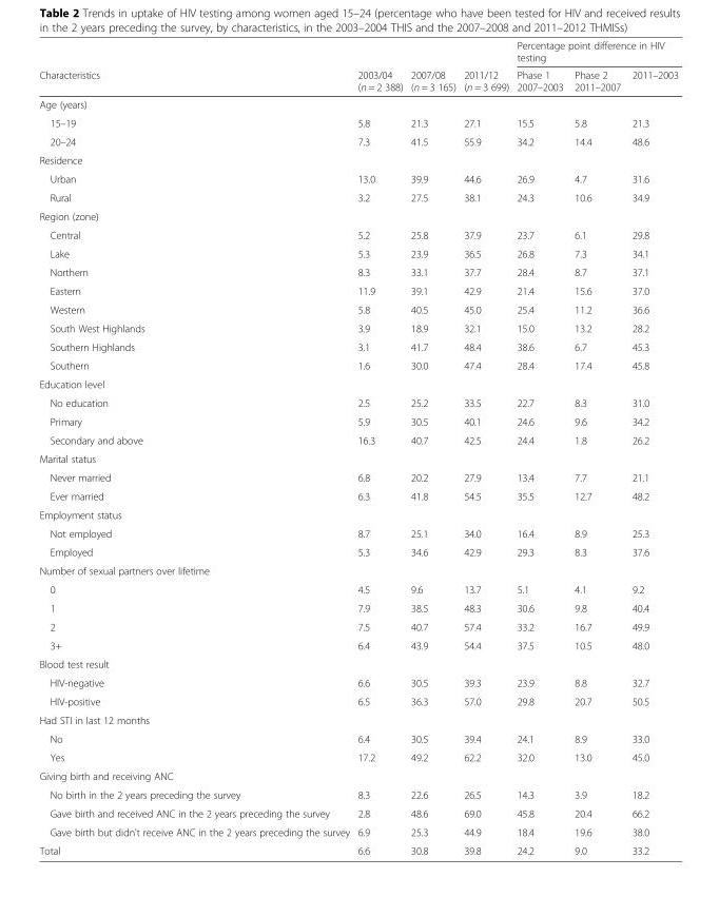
<table><thead><tr><td rowspan="2">Characteristics</td><td rowspan="2">2003/04 (n = 2 388)</td><td rowspan="2">2007/08 (n = 3 165)</td><td rowspan="2">2011/12 (n = 3 699)</td><td colspan="3">Percentage point difference in HIV testing</td></tr><tr><td>Phase 1 2007–2003</td><td>Phase 2 2011–2007</td><td>2011–2003</td></tr></thead><tbody><tr><td colspan="7">Age (years)</td></tr><tr><td>15–19</td><td>5.8</td><td>21.3</td><td>27.1</td><td>15.5</td><td>5.8</td><td>21.3</td></tr><tr><td>20–24</td><td>7.3</td><td>41.5</td><td>55.9</td><td>34.2</td><td>14.4</td><td>48.6</td></tr><tr><td colspan="7">Residence</td></tr><tr><td>Urban</td><td>13.0</td><td>39.9</td><td>44.6</td><td>26.9</td><td>4.7</td><td>31.6</td></tr><tr><td>Rural</td><td>3.2</td><td>27.5</td><td>38.1</td><td>24.3</td><td>10.6</td><td>34.9</td></tr><tr><td colspan="7">Region (zone)</td></tr><tr><td>Central</td><td>5.2</td><td>25.8</td><td>37.9</td><td>23.7</td><td>6.1</td><td>29.8</td></tr><tr><td>Lake</td><td>5.3</td><td>23.9</td><td>36.5</td><td>26.8</td><td>7.3</td><td>34.1</td></tr><tr><td>Northern</td><td>8.3</td><td>33.1</td><td>37.7</td><td>28.4</td><td>8.7</td><td>37.1</td></tr><tr><td>Eastern</td><td>11.9</td><td>39.1</td><td>42.9</td><td>21.4</td><td>15.6</td><td>37.0</td></tr><tr><td>Western</td><td>5.8</td><td>40.5</td><td>45.0</td><td>25.4</td><td>11.2</td><td>36.6</td></tr><tr><td>South West Highlands</td><td>3.9</td><td>18.9</td><td>32.1</td><td>15.0</td><td>13.2</td><td>28.2</td></tr><tr><td>Southern Highlands</td><td>3.1</td><td>41.7</td><td>48.4</td><td>38.6</td><td>6.7</td><td>45.3</td></tr><tr><td>Southern</td><td>1.6</td><td>30.0</td><td>47.4</td><td>28.4</td><td>17.4</td><td>45.8</td></tr><tr><td colspan="7">Education level</td></tr><tr><td>No education</td><td>2.5</td><td>25.2</td><td>33.5</td><td>22.7</td><td>8.3</td><td>31.0</td></tr><tr><td>Primary</td><td>5.9</td><td>30.5</td><td>40.1</td><td>24.6</td><td>9.6</td><td>34.2</td></tr><tr><td>Secondary and above</td><td>16.3</td><td>40.7</td><td>42.5</td><td>24.4</td><td>1.8</td><td>26.2</td></tr><tr><td colspan="7">Marital status</td></tr><tr><td>Never married</td><td>6.8</td><td>20.2</td><td>27.9</td><td>13.4</td><td>7.7</td><td>21.1</td></tr><tr><td>Ever married</td><td>6.3</td><td>41.8</td><td>54.5</td><td>35.5</td><td>12.7</td><td>48.2</td></tr><tr><td colspan="7">Employment status</td></tr><tr><td>Not employed</td><td>8.7</td><td>25.1</td><td>34.0</td><td>16.4</td><td>8.9</td><td>25.3</td></tr><tr><td>Employed</td><td>5.3</td><td>34.6</td><td>42.9</td><td>29.3</td><td>8.3</td><td>37.6</td></tr><tr><td colspan="7">Number of sexual partners over lifetime</td></tr><tr><td>0</td><td>4.5</td><td>9.6</td><td>13.7</td><td>5.1</td><td>4.1</td><td>9.2</td></tr><tr><td>1</td><td>7.9</td><td>38.5</td><td>48.3</td><td>30.6</td><td>9.8</td><td>40.4</td></tr><tr><td>2</td><td>7.5</td><td>40.7</td><td>57.4</td><td>33.2</td><td>16.7</td><td>49.9</td></tr><tr><td>3+</td><td>6.4</td><td>43.9</td><td>54.4</td><td>37.5</td><td>10.5</td><td>48.0</td></tr><tr><td colspan="7">Blood test result</td></tr><tr><td>HIV-negative</td><td>6.6</td><td>30.5</td><td>39.3</td><td>23.9</td><td>8.8</td><td>32.7</td></tr><tr><td>HIV-positive</td><td>6.5</td><td>36.3</td><td>57.0</td><td>29.8</td><td>20.7</td><td>50.5</td></tr><tr><td colspan="7">Had STI in last 12 months</td></tr><tr><td>No</td><td>6.4</td><td>30.5</td><td>39.4</td><td>24.1</td><td>8.9</td><td>33.0</td></tr><tr><td>Yes</td><td>17.2</td><td>49.2</td><td>62.2</td><td>32.0</td><td>13.0</td><td>45.0</td></tr><tr><td colspan="7">Giving birth and receiving ANC</td></tr><tr><td>No birth in the 2 years preceding the survey</td><td>8.3</td><td>22.6</td><td>26.5</td><td>14.3</td><td>3.9</td><td>18.2</td></tr><tr><td>Gave birth and received ANC in the 2 years preceding the survey</td><td>2.8</td><td>48.6</td><td>69.0</td><td>45.8</td><td>20.4</td><td>66.2</td></tr><tr><td>Gave birth but didn&#x27;t receive ANC in the 2 years preceding the survey</td><td>6.9</td><td>25.3</td><td>44.9</td><td>18.4</td><td>19.6</td><td>38.0</td></tr><tr><td>Total</td><td>6.6</td><td>30.8</td><td>39.8</td><td>24.2</td><td>9.0</td><td>33.2</td></tr></tbody></table>